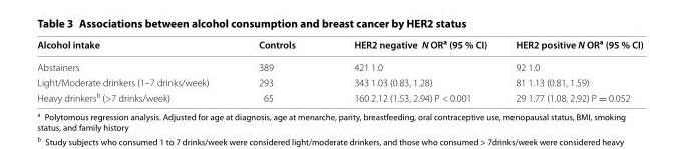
<table><thead><tr><td>Alcohol intake</td><td>Controls</td><td>HER2 negative N OR<sup>a</sup> (95 % CI)</td><td>HER2 positive N OR<sup>a</sup> (95 % CI)</td></tr></thead><tbody><tr><td>Abstainers</td><td>389</td><td>421 1.0</td><td>92 1.0</td></tr><tr><td>Light/Moderate drinkers (1–7 drinks/week)</td><td>293</td><td>343 1.03 (0.83, 1.28)</td><td>81 1.13 (0.81, 1.59)</td></tr><tr><td>Heavy drinkers<sup>b</sup> (&gt;7 drinks/week)</td><td>65</td><td>160 2.12 (1.53, 2.94) P &lt; 0.001</td><td>29 1.77 (1.08, 2.92) P = 0.052</td></tr></tbody></table>